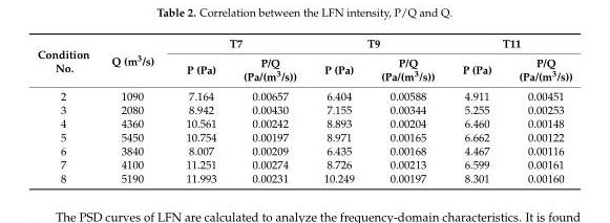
<table><thead><tr><td rowspan="2">Condition No.</td><td rowspan="2">Q (m<sup>3</sup>/s)</td><td colspan="2">T7</td><td colspan="2">T9</td><td colspan="2">T11</td></tr><tr><td>P (Pa)</td><td>P/Q (Pa/(m<sup>3</sup>/s))</td><td>P (Pa)</td><td>P/Q (Pa/(m<sup>3</sup>/s))</td><td>P (Pa)</td><td>P/Q (Pa/(m<sup>3</sup>/s))</td></tr></thead><tbody><tr><td>2</td><td>1090</td><td>7.164</td><td>0.00657</td><td>6.404</td><td>0.00588</td><td>4.911</td><td>0.00451</td></tr><tr><td>3</td><td>2080</td><td>8.942</td><td>0.00430</td><td>7.155</td><td>0.00344</td><td>5.255</td><td>0.00253</td></tr><tr><td>4</td><td>4360</td><td>10.561</td><td>0.00242</td><td>8.893</td><td>0.00204</td><td>6.460</td><td>0.00148</td></tr><tr><td>5</td><td>5450</td><td>10.754</td><td>0.00197</td><td>8.971</td><td>0.00165</td><td>6.662</td><td>0.00122</td></tr><tr><td>6</td><td>3840</td><td>8.007</td><td>0.00209</td><td>6.435</td><td>0.00168</td><td>4.467</td><td>0.00116</td></tr><tr><td>7</td><td>4100</td><td>11.251</td><td>0.00274</td><td>8.726</td><td>0.00213</td><td>6.599</td><td>0.00161</td></tr><tr><td>8</td><td>5190</td><td>11.993</td><td>0.00231</td><td>10.249</td><td>0.00197</td><td>8.301</td><td>0.00160</td></tr></tbody></table>